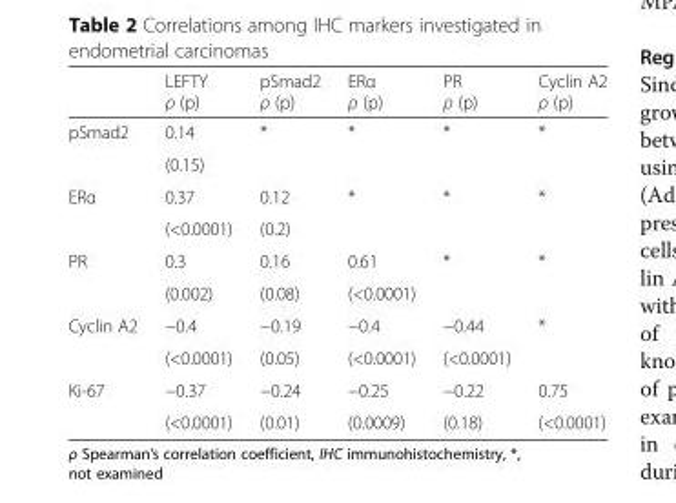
<table><thead><tr><td></td><td>LEFTY ρ (p)</td><td>pSmad2 ρ (p)</td><td>ERα ρ (p)</td><td>PR ρ (p)</td><td>Cyclin A2 ρ (p)</td></tr></thead><tbody><tr><td rowspan="2">pSmad2</td><td>0.14</td><td>*</td><td>*</td><td>*</td><td>*</td></tr><tr><td>(0.15)</td><td></td><td></td><td></td><td></td></tr><tr><td rowspan="2">ERα</td><td>0.37</td><td>0.12</td><td>*</td><td>*</td><td>*</td></tr><tr><td>(&lt;0.0001)</td><td>(0.2)</td><td></td><td></td><td></td></tr><tr><td rowspan="2">PR</td><td>0.3</td><td>0.16</td><td>0.61</td><td>*</td><td>*</td></tr><tr><td>(0.002)</td><td>(0.08)</td><td>(&lt;0.0001)</td><td></td><td></td></tr><tr><td rowspan="2">Cyclin A2</td><td>−0.4</td><td>−0.19</td><td>−0.4</td><td>−0.44</td><td>*</td></tr><tr><td>(&lt;0.0001)</td><td>(0.05)</td><td>(&lt;0.0001)</td><td>(&lt;0.0001)</td><td></td></tr><tr><td rowspan="2">Ki-67</td><td>−0.37</td><td>−0.24</td><td>−0.25</td><td>−0.22</td><td>0.75</td></tr><tr><td>(&lt;0.0001)</td><td>(0.01)</td><td>(0.0009)</td><td>(0.18)</td><td>(&lt;0.0001)</td></tr></tbody></table>